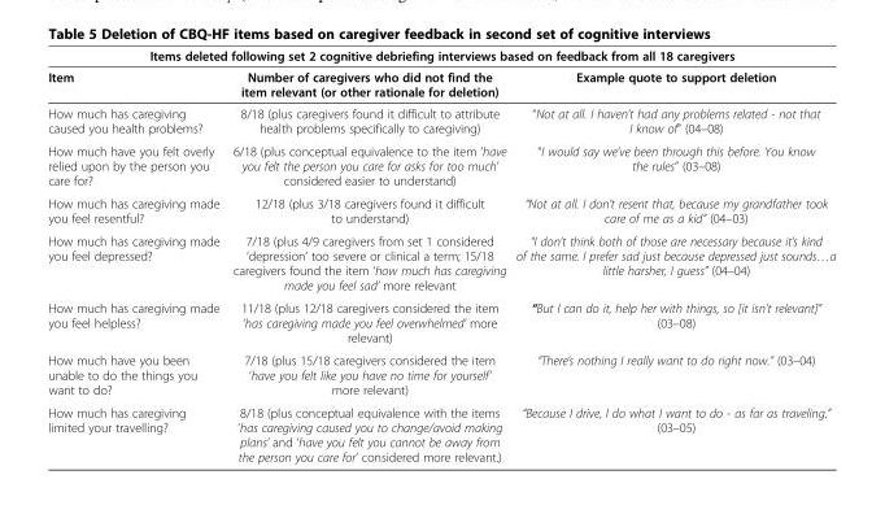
<table><thead><tr><td colspan="3">Items deleted following set 2 cognitive debriefing interviews based on feedback from all 18 caregivers</td></tr><tr><td>Item</td><td>Number of caregivers who did not find the item relevant (or other rationale for deletion)</td><td>Example quote to support deletion</td></tr></thead><tbody><tr><td>How much has caregiving caused you health problems?</td><td>8/18 (plus caregivers found it difficult to attribute health problems specifically to caregiving)</td><td>“Not at all. I haven’t had any problems related - not that I know of” (04–08)</td></tr><tr><td>How much have you felt overly relied upon by the person you care for?</td><td>6/18 (plus conceptual equivalence to the item ‘have you felt the person you care for asks for too much’ considered easier to understand)</td><td>“I would say we’ve been through this before. You know the rules” (03–08)</td></tr><tr><td>How much has caregiving made you feel resentful?</td><td>12/18 (plus 3/18 caregivers found it difficult to understand)</td><td>“Not at all. I don’t resent that, because my grandfather took care of me as a kid” (04–03)</td></tr><tr><td>How much has caregiving made you feel depressed?</td><td>7/18 (plus 4/9 caregivers from set 1 considered ‘depression’ too severe or clinical a term; 15/18 caregivers found the item ‘how much has caregiving made you feel sad’ more relevant</td><td>“I don’t think both of those are necessary because it’s kind of the same. I prefer sad just because depressed just sounds…a little harsher, I guess” (04–04)</td></tr><tr><td>How much has caregiving made you feel helpless?</td><td>11/18 (plus 12/18 caregivers considered the item ‘has caregiving made you feel overwhelmed’ more relevant)</td><td>“But I can do it, help her with things, so [it isn’t relevant]” (03–08)</td></tr><tr><td>How much have you been unable to do the things you want to do?</td><td>7/18 (plus 15/18 caregivers considered the item ‘have you felt like you have no time for yourself’ more relevant)</td><td>“There’s nothing I really want to do right now.” (03–04)</td></tr><tr><td>How much has caregiving limited your travelling?</td><td>8/18 (plus conceptual equivalence with the items ‘has caregiving caused you to change/avoid making plans’ and ‘have you felt you cannot be away from the person you care for’ considered more relevant.)</td><td>“Because I drive, I do what I want to do - as far as traveling.” (03–05)</td></tr></tbody></table>